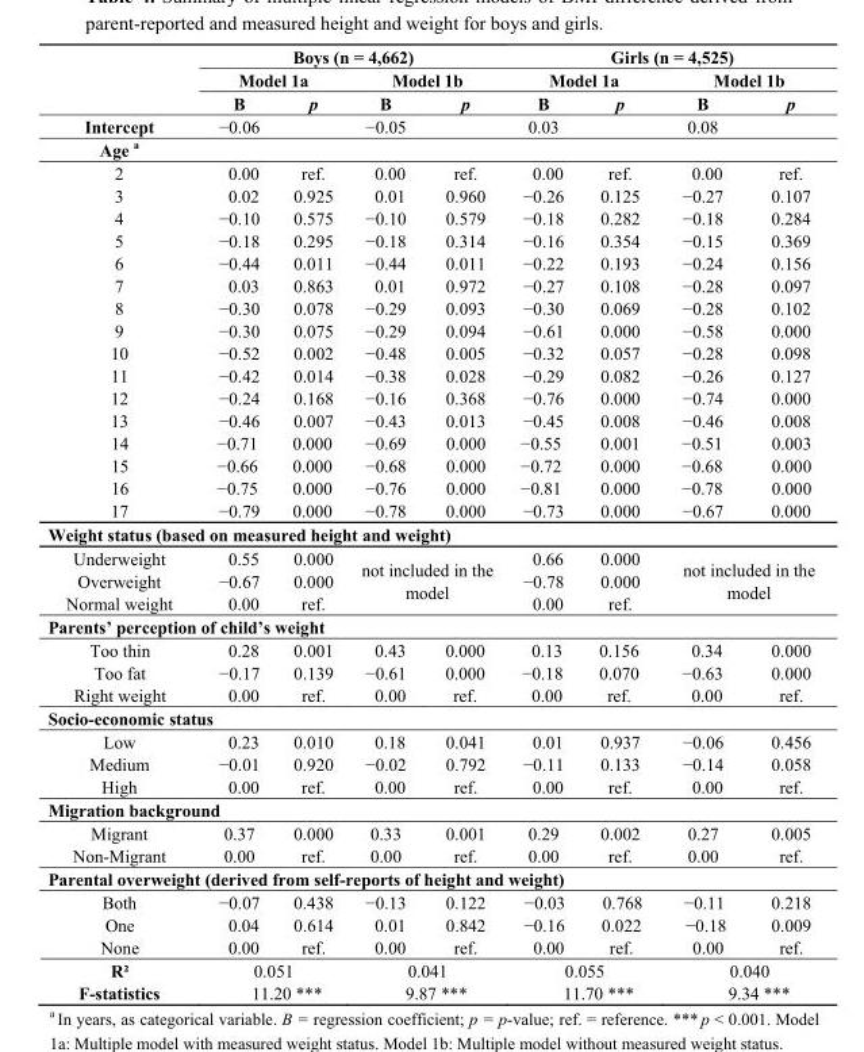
<table><thead><tr><td rowspan="3"></td><td colspan="4">Boys (n = 4,662)</td><td colspan="4">Girls (n = 4,525)</td></tr><tr><td colspan="2">Model 1a</td><td colspan="2">Model 1b</td><td colspan="2">Model 1a</td><td colspan="2">Model 1b</td></tr><tr><td>B</td><td>p</td><td>B</td><td>p</td><td>B</td><td>p</td><td>B</td><td>p</td></tr></thead><tbody><tr><td>Intercept</td><td>−0.06</td><td></td><td>−0.05</td><td></td><td>0.03</td><td></td><td>0.08</td><td></td></tr><tr><td colspan="9">Age <sup>a</sup></td></tr><tr><td>2</td><td>0.00</td><td>ref.</td><td>0.00</td><td>ref.</td><td>0.00</td><td>ref.</td><td>0.00</td><td>ref.</td></tr><tr><td>3</td><td>0.02</td><td>0.925</td><td>0.01</td><td>0.960</td><td>−0.26</td><td>0.125</td><td>−0.27</td><td>0.107</td></tr><tr><td>4</td><td>−0.10</td><td>0.575</td><td>−0.10</td><td>0.579</td><td>−0.18</td><td>0.282</td><td>−0.18</td><td>0.284</td></tr><tr><td>5</td><td>−0.18</td><td>0.295</td><td>−0.18</td><td>0.314</td><td>−0.16</td><td>0.354</td><td>−0.15</td><td>0.369</td></tr><tr><td>6</td><td>−0.44</td><td>0.011</td><td>−0.44</td><td>0.011</td><td>−0.22</td><td>0.193</td><td>−0.24</td><td>0.156</td></tr><tr><td>7</td><td>0.03</td><td>0.863</td><td>0.01</td><td>0.972</td><td>−0.27</td><td>0.108</td><td>−0.28</td><td>0.097</td></tr><tr><td>8</td><td>−0.30</td><td>0.078</td><td>−0.29</td><td>0.093</td><td>−0.30</td><td>0.069</td><td>−0.28</td><td>0.102</td></tr><tr><td>9</td><td>−0.30</td><td>0.075</td><td>−0.29</td><td>0.094</td><td>−0.61</td><td>0.000</td><td>−0.58</td><td>0.000</td></tr><tr><td>10</td><td>−0.52</td><td>0.002</td><td>−0.48</td><td>0.005</td><td>−0.32</td><td>0.057</td><td>−0.28</td><td>0.098</td></tr><tr><td>11</td><td>−0.42</td><td>0.014</td><td>−0.38</td><td>0.028</td><td>−0.29</td><td>0.082</td><td>−0.26</td><td>0.127</td></tr><tr><td>12</td><td>−0.24</td><td>0.168</td><td>−0.16</td><td>0.368</td><td>−0.76</td><td>0.000</td><td>−0.74</td><td>0.000</td></tr><tr><td>13</td><td>−0.46</td><td>0.007</td><td>−0.43</td><td>0.013</td><td>−0.45</td><td>0.008</td><td>−0.46</td><td>0.008</td></tr><tr><td>14</td><td>−0.71</td><td>0.000</td><td>−0.69</td><td>0.000</td><td>−0.55</td><td>0.001</td><td>−0.51</td><td>0.003</td></tr><tr><td>15</td><td>−0.66</td><td>0.000</td><td>−0.68</td><td>0.000</td><td>−0.72</td><td>0.000</td><td>−0.68</td><td>0.000</td></tr><tr><td>16</td><td>−0.75</td><td>0.000</td><td>−0.76</td><td>0.000</td><td>−0.81</td><td>0.000</td><td>−0.78</td><td>0.000</td></tr><tr><td>17</td><td>−0.79</td><td>0.000</td><td>−0.78</td><td>0.000</td><td>−0.73</td><td>0.000</td><td>−0.67</td><td>0.000</td></tr><tr><td colspan="9">Weight status (based on measured height and weight)</td></tr><tr><td>Underweight</td><td>0.55</td><td>0.000</td><td rowspan="3" colspan="2">not included in the model</td><td>0.66</td><td>0.000</td><td rowspan="3" colspan="2">not included in the model</td></tr><tr><td>Overweight</td><td>−0.67</td><td>0.000</td><td>−0.78</td><td>0.000</td></tr><tr><td>Normal weight</td><td>0.00</td><td>ref.</td><td>0.00</td><td>ref.</td></tr><tr><td colspan="9">Parents’ perception of child’s weight</td></tr><tr><td>Too thin</td><td>0.28</td><td>0.001</td><td>0.43</td><td>0.000</td><td>0.13</td><td>0.156</td><td>0.34</td><td>0.000</td></tr><tr><td>Too fat</td><td>−0.17</td><td>0.139</td><td>−0.61</td><td>0.000</td><td>−0.18</td><td>0.070</td><td>−0.63</td><td>0.000</td></tr><tr><td>Right weight</td><td>0.00</td><td>ref.</td><td>0.00</td><td>ref.</td><td>0.00</td><td>ref.</td><td>0.00</td><td>ref.</td></tr><tr><td colspan="9">Socio-economic status</td></tr><tr><td>Low</td><td>0.23</td><td>0.010</td><td>0.18</td><td>0.041</td><td>0.01</td><td>0.937</td><td>−0.06</td><td>0.456</td></tr><tr><td>Medium</td><td>−0.01</td><td>0.920</td><td>−0.02</td><td>0.792</td><td>−0.11</td><td>0.133</td><td>−0.14</td><td>0.058</td></tr><tr><td>High</td><td>0.00</td><td>ref.</td><td>0.00</td><td>ref.</td><td>0.00</td><td>ref.</td><td>0.00</td><td>ref.</td></tr><tr><td colspan="9">Migration background</td></tr><tr><td>Migrant</td><td>0.37</td><td>0.000</td><td>0.33</td><td>0.001</td><td>0.29</td><td>0.002</td><td>0.27</td><td>0.005</td></tr><tr><td>Non-Migrant</td><td>0.00</td><td>ref.</td><td>0.00</td><td>ref.</td><td>0.00</td><td>ref.</td><td>0.00</td><td>ref.</td></tr><tr><td colspan="9">Parental overweight (derived from self-reports of height and weight)</td></tr><tr><td>Both</td><td>−0.07</td><td>0.438</td><td>−0.13</td><td>0.122</td><td>−0.03</td><td>0.768</td><td>−0.11</td><td>0.218</td></tr><tr><td>One</td><td>0.04</td><td>0.614</td><td>0.01</td><td>0.842</td><td>−0.16</td><td>0.022</td><td>−0.18</td><td>0.009</td></tr><tr><td>None</td><td>0.00</td><td>ref.</td><td>0.00</td><td>ref.</td><td>0.00</td><td>ref.</td><td>0.00</td><td>ref.</td></tr><tr><td>R²</td><td colspan="2">0.051</td><td colspan="2">0.041</td><td colspan="2">0.055</td><td colspan="2">0.040</td></tr><tr><td>F-statistics</td><td colspan="2">11.20 ***</td><td colspan="2">9.87 ***</td><td colspan="2">11.70 ***</td><td colspan="2">9.34 ***</td></tr></tbody></table>